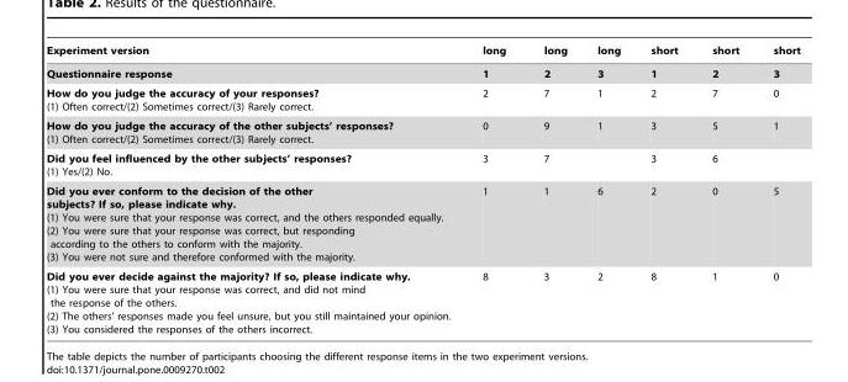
<table><thead><tr><td>Experiment version</td><td>long</td><td>long</td><td>long</td><td>short</td><td>short</td><td>short</td></tr></thead><tbody><tr><td>Questionnaire response</td><td>1</td><td>2</td><td>3</td><td>1</td><td>2</td><td>3</td></tr><tr><td>How do you judge the accuracy of your responses? (1) Often correct/(2) Sometimes correct/(3) Rarely correct.</td><td>2</td><td>7</td><td>1</td><td>2</td><td>7</td><td>0</td></tr><tr><td>How do you judge the accuracy of the other subjects’ responses? (1) Often correct/(2) Sometimes correct/(3) Rarely correct.</td><td>0</td><td>9</td><td>1</td><td>3</td><td>5</td><td>1</td></tr><tr><td>Did you feel influenced by the other subjects’ responses? (1) Yes/(2) No.</td><td>3</td><td>7</td><td></td><td>3</td><td>6</td><td></td></tr><tr><td>Did you ever conform to the decision of the other subjects? If so, please indicate why. (1) You were sure that your response was correct, and the others responded equally. (2) You were sure that your response was correct, but responding according to the others to conform with the majority. (3) You were not sure and therefore conformed with the majority.</td><td>1</td><td>1</td><td>6</td><td>2</td><td>0</td><td>5</td></tr><tr><td>Did you ever decide against the majority? If so, please indicate why. (1) You were sure that your response was correct, and did not mind the response of the others. (2) The others’ responses made you feel unsure, but you still maintained your opinion. (3) You considered the responses of the others incorrect.</td><td>8</td><td>3</td><td>2</td><td>8</td><td>1</td><td>0</td></tr></tbody></table>